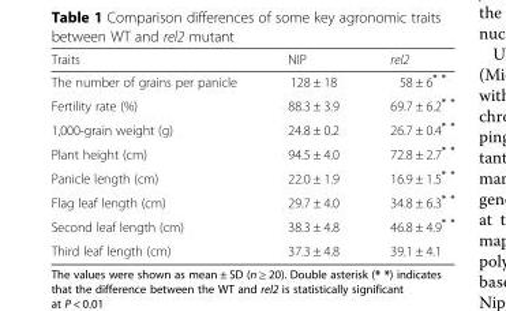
<table><thead><tr><td>Traits</td><td>NIP</td><td>rel2</td></tr></thead><tbody><tr><td>The number of grains per panicle</td><td>128 ± 18</td><td>58 ± 6* *</td></tr><tr><td>Fertility rate (%)</td><td>88.3 ± 3.9</td><td>69.7 ± 6.2* *</td></tr><tr><td>1,000-grain weight (g)</td><td>24.8 ± 0.2</td><td>26.7 ± 0.4* *</td></tr><tr><td>Plant height (cm)</td><td>94.5 ± 4.0</td><td>72.8 ± 2.7* *</td></tr><tr><td>Panicle length (cm)</td><td>22.0 ± 1.9</td><td>16.9 ± 1.5* *</td></tr><tr><td>Flag leaf length (cm)</td><td>29.7 ± 4.0</td><td>34.8 ± 6.3* *</td></tr><tr><td>Second leaf length (cm)</td><td>38.3 ± 4.8</td><td>46.8 ± 4.9* *</td></tr><tr><td>Third leaf length (cm)</td><td>37.3 ± 4.8</td><td>39.1 ± 4.1</td></tr></tbody></table>